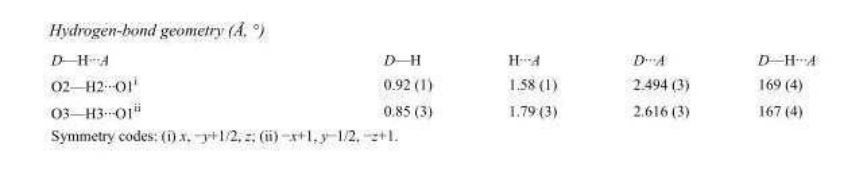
<table><tbody><tr><td>D—H···A</td><td>D—H</td><td>H···A</td><td>D···A</td><td>D—H···A</td></tr><tr><td>O2—H2···O1<sup>i</sup></td><td>0.92 (1)</td><td>1.58 (1)</td><td>2.494 (3)</td><td>169 (4)</td></tr><tr><td>O3—H3···O1<sup>ii</sup></td><td>0.85 (3)</td><td>1.79 (3)</td><td>2.616 (3)</td><td>167 (4)</td></tr></tbody></table>